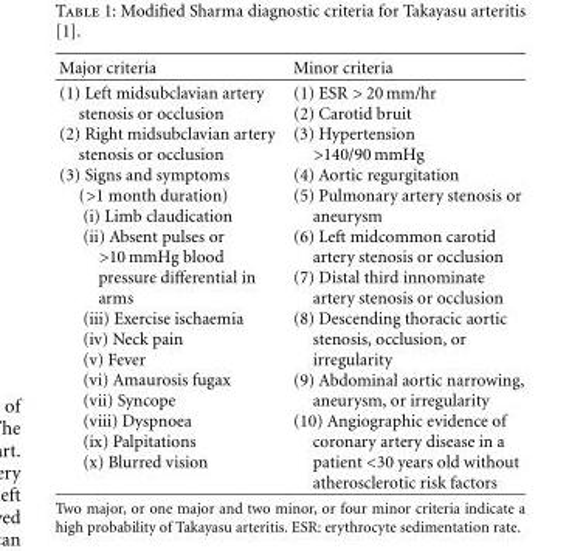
<table><thead><tr><td>Major criteria</td><td>Minor criteria</td></tr></thead><tbody><tr><td>(1) Left midsubclavian artery stenosis or occlusion (2) Right midsubclavian artery stenosis or occlusion (3) Signs and symptoms (&gt;1 month duration) (i) Limb claudication (ii) Absent pulses or &gt;10 mmHg blood pressure differential in arms (iii) Exercise ischaemia (iv) Neck pain (v) Fever (vi) Amaurosis fugax (vii) Syncope (viii) Dyspnoea (ix) Palpitations (x) Blurred vision</td><td>(1) ESR &gt; 20 mm/hr (2) Carotid bruit (3) Hypertension &gt;140/90 mmHg (4) Aortic regurgitation (5) Pulmonary artery stenosis or aneurysm (6) Left midcommon carotid artery stenosis or occlusion (7) Distal third innominate artery stenosis or occlusion (8) Descending thoracic aortic stenosis, occlusion, or irregularity (9) Abdominal aortic narrowing, aneurysm, or irregularity (10) Angiographic evidence of coronary artery disease in a patient &lt;30 years old without atherosclerotic risk factors</td></tr></tbody></table>